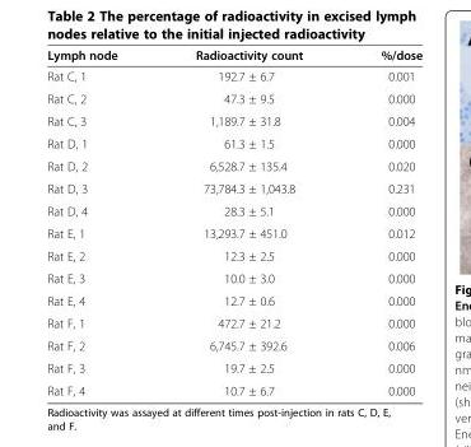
<table><thead><tr><td>Lymph node</td><td>Radioactivity count</td><td>%/dose</td></tr></thead><tbody><tr><td>Rat C, 1</td><td>192.7 ± 6.7</td><td>0.001</td></tr><tr><td>Rat C, 2</td><td>47.3 ± 9.5</td><td>0.000</td></tr><tr><td>Rat C, 3</td><td>1,189.7 ± 31.8</td><td>0.004</td></tr><tr><td>Rat D, 1</td><td>61.3 ± 1.5</td><td>0.000</td></tr><tr><td>Rat D, 2</td><td>6,528.7 ± 135.4</td><td>0.020</td></tr><tr><td>Rat D, 3</td><td>73,784.3 ± 1,043.8</td><td>0.231</td></tr><tr><td>Rat D, 4</td><td>28.3 ± 5.1</td><td>0.000</td></tr><tr><td>Rat E, 1</td><td>13,293.7 ± 451.0</td><td>0.012</td></tr><tr><td>Rat E, 2</td><td>12.3 ± 2.5</td><td>0.000</td></tr><tr><td>Rat E, 3</td><td>10.0 ± 3.0</td><td>0.000</td></tr><tr><td>Rat E, 4</td><td>12.7 ± 0.6</td><td>0.000</td></tr><tr><td>Rat F, 1</td><td>472.7 ± 21.2</td><td>0.000</td></tr><tr><td>Rat F, 2</td><td>6,745.7 ± 392.6</td><td>0.006</td></tr><tr><td>Rat F, 3</td><td>19.7 ± 2.5</td><td>0.000</td></tr><tr><td>Rat F, 4</td><td>10.7 ± 6.7</td><td>0.000</td></tr></tbody></table>